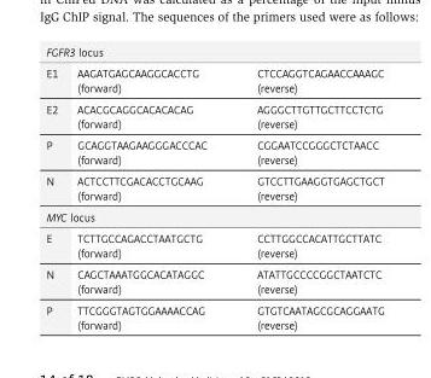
<table><tbody><tr><td colspan="3">FGFR3 locus</td></tr><tr><td>E1</td><td>AAGATGAGCAAGGCACCTG (forward)</td><td>CTCCAGGTCAGAACCAAAGC (reverse)</td></tr><tr><td>E2</td><td>ACACGCAGGCACACACAG (forward)</td><td>AGGGCTTGTTGCTTCCTCTG (reverse)</td></tr><tr><td>P</td><td>GCAGGTAAGAAGGGACCCAC (forward)</td><td>CGGAATCCGGGCTCTAACC (reverse)</td></tr><tr><td>N</td><td>ACTCCTTCGACACCTGCAAG (forward)</td><td>GTCCTTGAAGGTGAGCTGCT (reverse)</td></tr><tr><td colspan="3">MYC locus</td></tr><tr><td>E</td><td>TCTTGCCAGACCTAATGCTG (forward)</td><td>CCTTGGCCACATTGCTTATC (reverse)</td></tr><tr><td>N</td><td>CAGCTAAATGGCACATAGGC (forward)</td><td>ATATTGCCCCGGCTAATCTC (reverse)</td></tr><tr><td>P</td><td>TTCGGGTAGTGGAAAACCAG (forward)</td><td>GTGTCAATAGCGCAGGAATG (reverse)</td></tr></tbody></table>